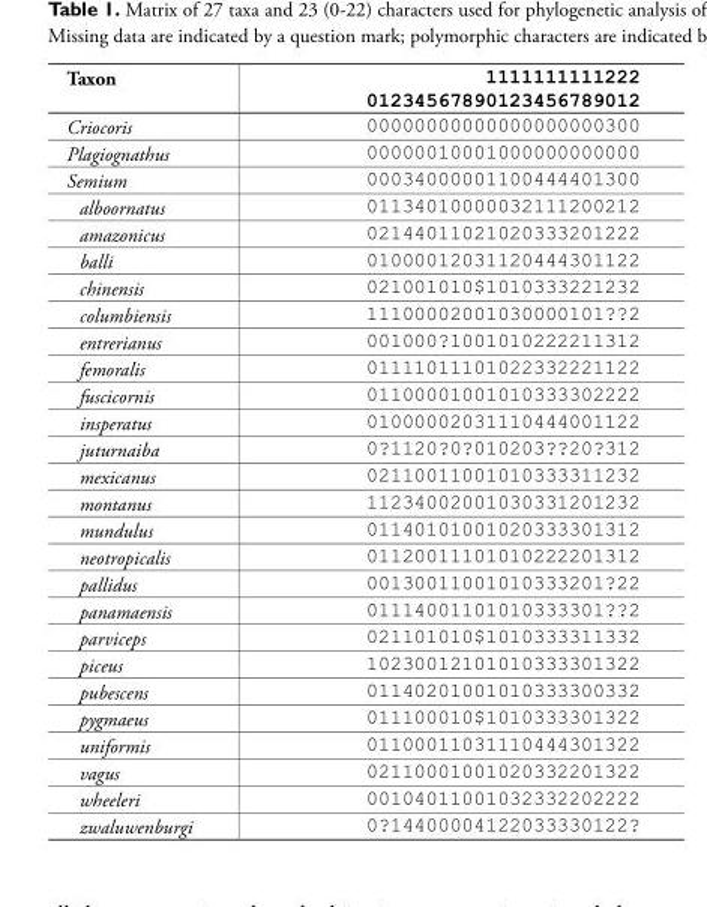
<table><tbody><tr><td>Taxon</td><td>1111111111222 01234567890123456789012</td></tr><tr><td>Criocoris</td><td>00000000000000000000300</td></tr><tr><td>Plagiognathus</td><td>00000010001000000000000</td></tr><tr><td>Semium</td><td>00034000001100444401300</td></tr><tr><td>alboornatus</td><td>01134010000032111200212</td></tr><tr><td>amazonicus</td><td>02144011021020333201222</td></tr><tr><td>balli</td><td>01000012031120444301122</td></tr><tr><td>chinensis</td><td>021001010$1010333221232</td></tr><tr><td>columbiensis</td><td>11100002001030000101??2</td></tr><tr><td>entrerianus</td><td>001000?1001010222211312</td></tr><tr><td>femoralis</td><td>01111011101022332221122</td></tr><tr><td>fuscicornis</td><td>01100001001010333302222</td></tr><tr><td>insperatus</td><td>01000002031110444001122</td></tr><tr><td>juturnaiba</td><td>0?1120?0?010203??20?312</td></tr><tr><td>mexicanus</td><td>02110011001010333311232</td></tr><tr><td>montanus</td><td>11234002001030331201232</td></tr><tr><td>mundulus</td><td>01140101001020333301312</td></tr><tr><td>neotropicalis</td><td>01120011101010222201312</td></tr><tr><td>pallidus</td><td>00130011001010333201?22</td></tr><tr><td>panamaensis</td><td>01114001101010333301??2</td></tr><tr><td>parviceps</td><td>021101010$1010333311332</td></tr><tr><td>piceus</td><td>10230012101010333301322</td></tr><tr><td>pubescens</td><td>01140201001010333300332</td></tr><tr><td>pygmaeus</td><td>011100010$1010333301322</td></tr><tr><td>uniformis</td><td>01100011031110444301322</td></tr><tr><td>vagus</td><td>02110001001020332201322</td></tr><tr><td>wheeleri</td><td>00104011001032332202222</td></tr><tr><td>zwaluwenburgi</td><td>0?14400004122033330122?</td></tr></tbody></table>